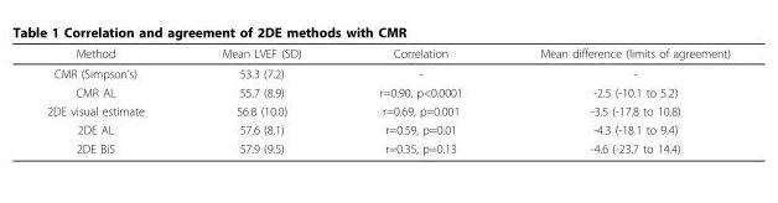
<table><thead><tr><td>Method</td><td>Mean LVEF (SD)</td><td>Correlation</td><td>Mean difference (limits of agreement)</td></tr></thead><tbody><tr><td>CMR (Simpson’s)</td><td>53.3 (7.2)</td><td>-</td><td>-</td></tr><tr><td>CMR AL</td><td>55.7 (8.9)</td><td>r=0.90, p&lt;0.0001</td><td>-2.5 (-10.1 to 5.2)</td></tr><tr><td>2DE visual estimate</td><td>56.8 (10.0)</td><td>r=0.69, p=0.001</td><td>-3.5 (-17.8 to 10.8)</td></tr><tr><td>2DE AL</td><td>57.6 (8.1)</td><td>r=0.59, p=0.01</td><td>-4.3 (-18.1 to 9.4)</td></tr><tr><td>2DE BiS</td><td>57.9 (9.5)</td><td>r=0.35, p=0.13</td><td>-4.6 (-23.7 to 14.4)</td></tr></tbody></table>